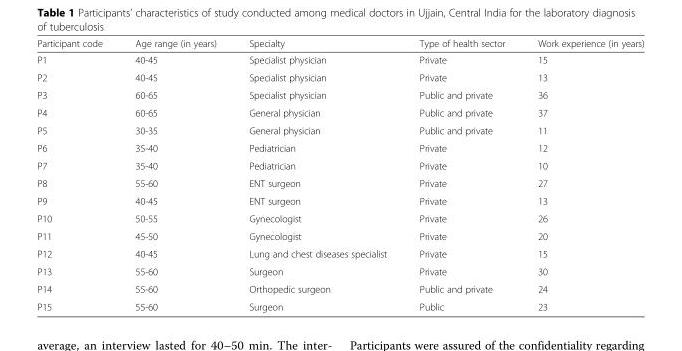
<table><thead><tr><td>Participant code</td><td>Age range (in years)</td><td>Specialty</td><td>Type of health sector</td><td>Work experience (in years)</td></tr></thead><tbody><tr><td>P1</td><td>40-45</td><td>Specialist physician</td><td>Private</td><td>15</td></tr><tr><td>P2</td><td>40-45</td><td>Specialist physician</td><td>Private</td><td>13</td></tr><tr><td>P3</td><td>60-65</td><td>Specialist physician</td><td>Public and private</td><td>36</td></tr><tr><td>P4</td><td>60-65</td><td>General physician</td><td>Public and private</td><td>37</td></tr><tr><td>P5</td><td>30-35</td><td>General physician</td><td>Public and private</td><td>11</td></tr><tr><td>P6</td><td>35-40</td><td>Pediatrician</td><td>Private</td><td>12</td></tr><tr><td>P7</td><td>35-40</td><td>Pediatrician</td><td>Private</td><td>10</td></tr><tr><td>P8</td><td>55-60</td><td>ENT surgeon</td><td>Private</td><td>27</td></tr><tr><td>P9</td><td>40-45</td><td>ENT surgeon</td><td>Private</td><td>13</td></tr><tr><td>P10</td><td>50-55</td><td>Gynecologist</td><td>Private</td><td>26</td></tr><tr><td>P11</td><td>45-50</td><td>Gynecologist</td><td>Private</td><td>20</td></tr><tr><td>P12</td><td>40-45</td><td>Lung and chest diseases specialist</td><td>Private</td><td>15</td></tr><tr><td>P13</td><td>55-60</td><td>Surgeon</td><td>Private</td><td>30</td></tr><tr><td>P14</td><td>55-60</td><td>Orthopedic surgeon</td><td>Public and private</td><td>24</td></tr><tr><td>P15</td><td>55-60</td><td>Surgeon</td><td>Public</td><td>23</td></tr></tbody></table>